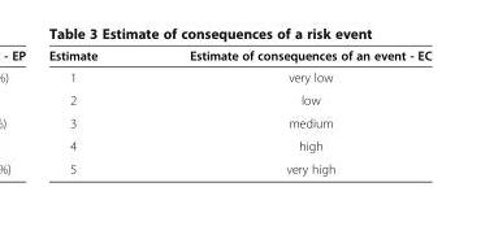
<table><thead><tr><td>Estimate</td><td>Estimate of consequences of an event - EC</td></tr></thead><tbody><tr><td>1</td><td>very low</td></tr><tr><td>2</td><td>low</td></tr><tr><td>3</td><td>medium</td></tr><tr><td>4</td><td>high</td></tr><tr><td>5</td><td>very high</td></tr></tbody></table>